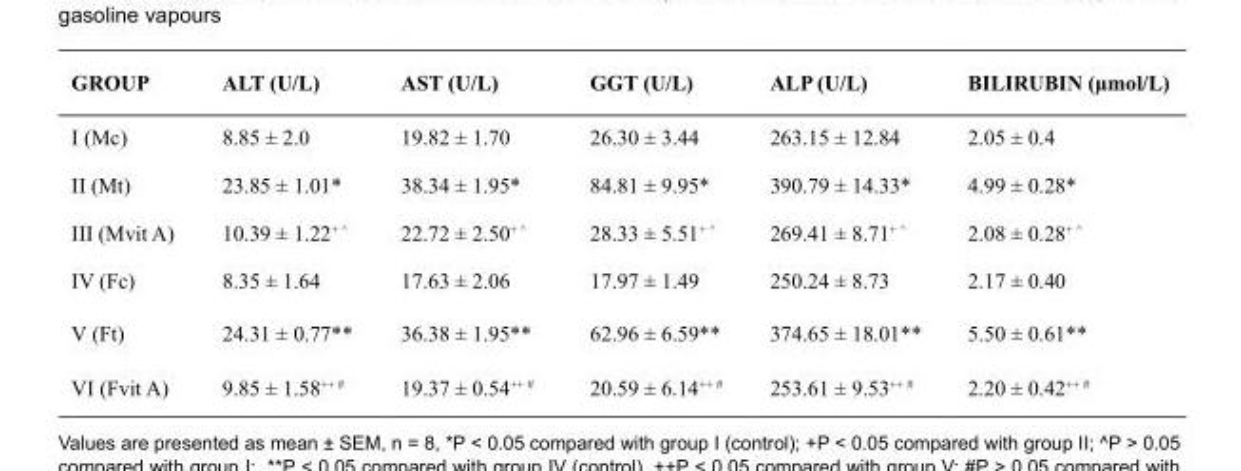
<table><thead><tr><td>GROUP</td><td>ALT (U/L)</td><td>AST (U/L)</td><td>GGT (U/L)</td><td>ALP (U/L)</td><td>BILIRUBIN (µmol/L)</td></tr></thead><tbody><tr><td>I (Mc)</td><td>8.85 ± 2.0</td><td>19.82 ± 1.70</td><td>26.30 ± 3.44</td><td>263.15 ± 12.84</td><td>2.05 ± 0.4</td></tr><tr><td>II (Mt)</td><td>23.85 ± 1.01*</td><td>38.34 ± 1.95*</td><td>84.81 ± 9.95*</td><td>390.79 ± 14.33*</td><td>4.99 ± 0.28*</td></tr><tr><td>III (Mvit A)</td><td>10.39 ± 1.22<sup>+ ∧</sup></td><td>22.72 ± 2.50<sup>+ ∧</sup></td><td>28.33 ± 5.51<sup>+ ∧</sup></td><td>269.41 ± 8.71<sup>+ ∧</sup></td><td>2.08 ± 0.28<sup>+ ∧</sup></td></tr><tr><td>IV (Fc)</td><td>8.35 ± 1.64</td><td>17.63 ± 2.06</td><td>17.97 ± 1.49</td><td>250.24 ± 8.73</td><td>2.17 ± 0.40</td></tr><tr><td>V (Ft)</td><td>24.31 ± 0.77**</td><td>36.38 ± 1.95**</td><td>62.96 ± 6.59**</td><td>374.65 ± 18.01**</td><td>5.50 ± 0.61**</td></tr><tr><td>VI (Fvit A)</td><td>9.85 ± 1.58<sup>++ #</sup></td><td>19.37 ± 0.54<sup>++ #</sup></td><td>20.59 ± 6.14<sup>++ #</sup></td><td>253.61 ± 9.53<sup>++ #</sup></td><td>2.20 ± 0.42<sup>++ #</sup></td></tr></tbody></table>